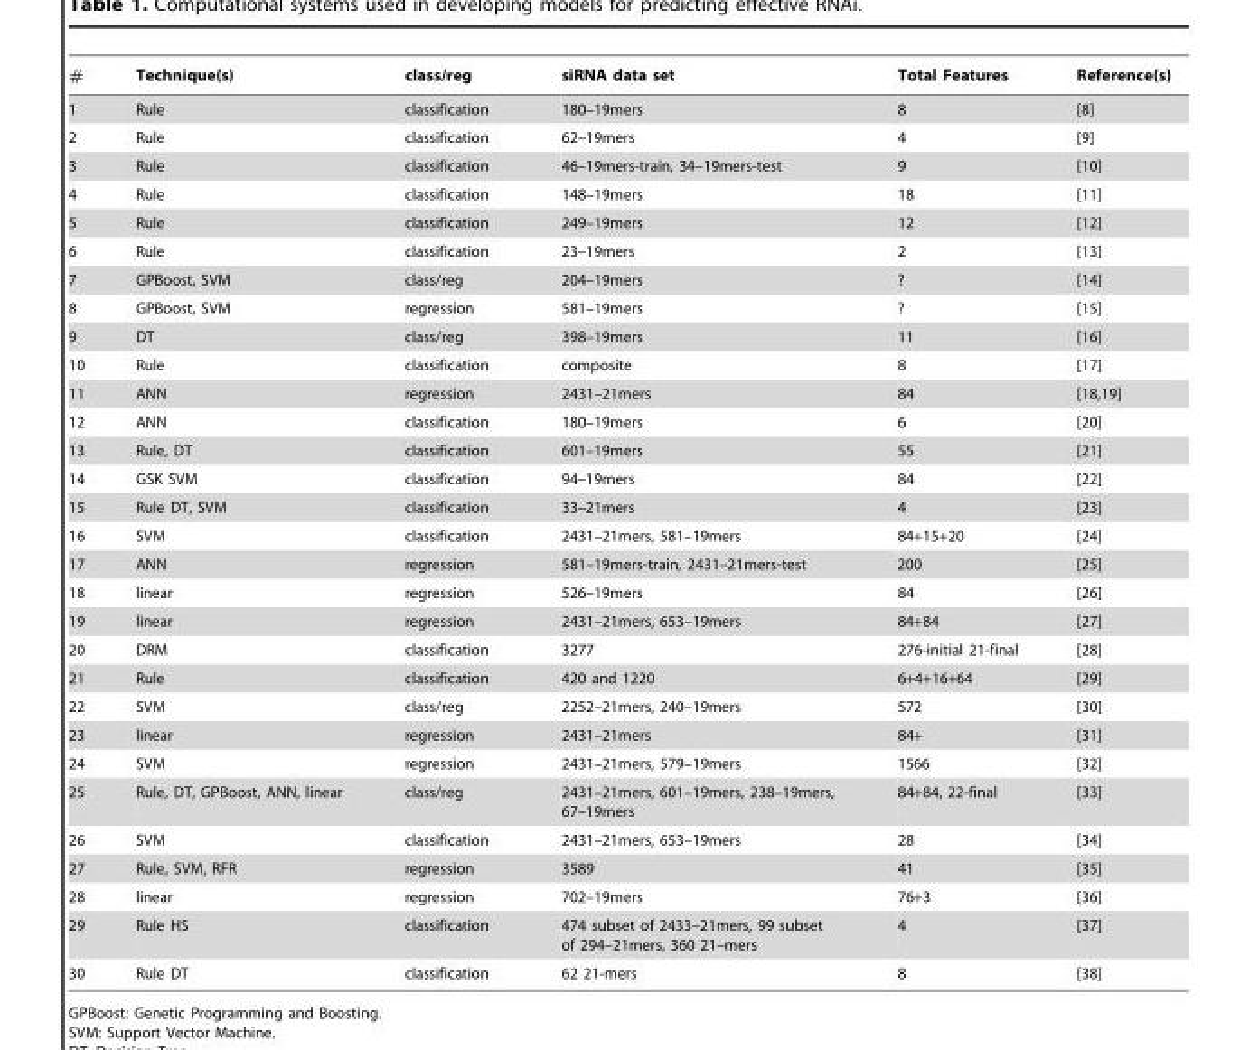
<table><thead><tr><td>#</td><td>Technique(s)</td><td>class/reg</td><td>siRNA data set</td><td>Total Features</td><td>Reference(s)</td></tr></thead><tbody><tr><td>1</td><td>Rule</td><td>classification</td><td>180–19mers</td><td>8</td><td>[8]</td></tr><tr><td>2</td><td>Rule</td><td>classification</td><td>62–19mers</td><td>4</td><td>[9]</td></tr><tr><td>3</td><td>Rule</td><td>classification</td><td>46–19mers-train, 34–19mers-test</td><td>9</td><td>[10]</td></tr><tr><td>4</td><td>Rule</td><td>classification</td><td>148–19mers</td><td>18</td><td>[11]</td></tr><tr><td>5</td><td>Rule</td><td>classification</td><td>249–19mers</td><td>12</td><td>[12]</td></tr><tr><td>6</td><td>Rule</td><td>classification</td><td>23–19mers</td><td>2</td><td>[13]</td></tr><tr><td>7</td><td>GPBoost, SVM</td><td>class/reg</td><td>204–19mers</td><td>?</td><td>[14]</td></tr><tr><td>8</td><td>GPBoost, SVM</td><td>regression</td><td>581–19mers</td><td>?</td><td>[15]</td></tr><tr><td>9</td><td>DT</td><td>class/reg</td><td>398–19mers</td><td>11</td><td>[16]</td></tr><tr><td>10</td><td>Rule</td><td>classification</td><td>composite</td><td>8</td><td>[17]</td></tr><tr><td>11</td><td>ANN</td><td>regression</td><td>2431–21mers</td><td>84</td><td>[18,19]</td></tr><tr><td>12</td><td>ANN</td><td>classification</td><td>180–19mers</td><td>6</td><td>[20]</td></tr><tr><td>13</td><td>Rule, DT</td><td>classification</td><td>601–19mers</td><td>55</td><td>[21]</td></tr><tr><td>14</td><td>GSK SVM</td><td>classification</td><td>94–19mers</td><td>84</td><td>[22]</td></tr><tr><td>15</td><td>Rule DT, SVM</td><td>classification</td><td>33–21mers</td><td>4</td><td>[23]</td></tr><tr><td>16</td><td>SVM</td><td>classification</td><td>2431–21mers, 581–19mers</td><td>84+15+20</td><td>[24]</td></tr><tr><td>17</td><td>ANN</td><td>regression</td><td>581–19mers-train, 2431–21mers-test</td><td>200</td><td>[25]</td></tr><tr><td>18</td><td>linear</td><td>regression</td><td>526–19mers</td><td>84</td><td>[26]</td></tr><tr><td>19</td><td>linear</td><td>regression</td><td>2431–21mers, 653–19mers</td><td>84+84</td><td>[27]</td></tr><tr><td>20</td><td>DRM</td><td>classification</td><td>3277</td><td>276-initial 21-final</td><td>[28]</td></tr><tr><td>21</td><td>Rule</td><td>classification</td><td>420 and 1220</td><td>6+4+16+64</td><td>[29]</td></tr><tr><td>22</td><td>SVM</td><td>class/reg</td><td>2252–21mers, 240–19mers</td><td>572</td><td>[30]</td></tr><tr><td>23</td><td>linear</td><td>regression</td><td>2431–21mers</td><td>84+</td><td>[31]</td></tr><tr><td>24</td><td>SVM</td><td>regression</td><td>2431–21mers, 579–19mers</td><td>1566</td><td>[32]</td></tr><tr><td>25</td><td>Rule, DT, GPBoost, ANN, linear</td><td>class/reg</td><td>2431–21mers, 601–19mers, 238–19mers, 67–19mers</td><td>84+84, 22-final</td><td>[33]</td></tr><tr><td>26</td><td>SVM</td><td>classification</td><td>2431–21mers, 653–19mers</td><td>28</td><td>[34]</td></tr><tr><td>27</td><td>Rule, SVM, RFR</td><td>regression</td><td>3589</td><td>41</td><td>[35]</td></tr><tr><td>28</td><td>linear</td><td>regression</td><td>702–19mers</td><td>76+3</td><td>[36]</td></tr><tr><td>29</td><td>Rule HS</td><td>classification</td><td>474 subset of 2433–21mers, 99 subset of 294–21mers, 360 21–mers</td><td>4</td><td>[37]</td></tr><tr><td>30</td><td>Rule DT</td><td>classification</td><td>62 21-mers</td><td>8</td><td>[38]</td></tr></tbody></table>